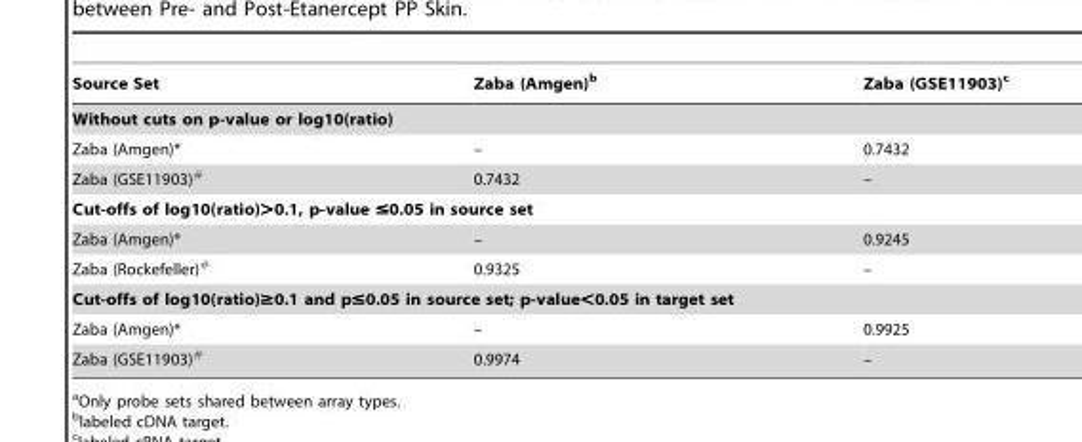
<table><thead><tr><td>Source Set</td><td>Zaba (Amgen)<sup>b</sup></td><td>Zaba (GSE11903)<sup>c</sup></td></tr></thead><tbody><tr><td colspan="3">Without cuts on p-value or log10(ratio)</td></tr><tr><td>Zaba (Amgen)*</td><td>–</td><td>0.7432</td></tr><tr><td>Zaba (GSE11903)<sup>#</sup></td><td>0.7432</td><td>–</td></tr><tr><td colspan="3">Cut-offs of log10(ratio)&gt;0.1, p-value ≤0.05 in source set</td></tr><tr><td>Zaba (Amgen)*</td><td>–</td><td>0.9245</td></tr><tr><td>Zaba (Rockefeller)<sup>#</sup></td><td>0.9325</td><td>–</td></tr><tr><td colspan="3">Cut-offs of log10(ratio)≥0.1 and p≤0.05 in source set; p-value&lt;0.05 in target set</td></tr><tr><td>Zaba (Amgen)*</td><td>–</td><td>0.9925</td></tr><tr><td>Zaba (GSE11903)<sup>#</sup></td><td>0.9974</td><td>–</td></tr></tbody></table>